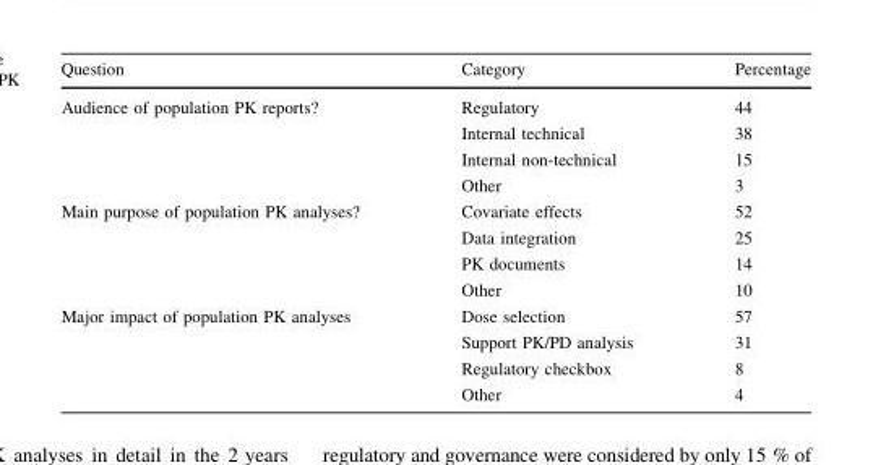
<table><thead><tr><td>Question</td><td>Category</td><td>Percentage</td></tr></thead><tbody><tr><td rowspan="4">Audience of population PK reports?</td><td>Regulatory</td><td>44</td></tr><tr><td>Internal technical</td><td>38</td></tr><tr><td>Internal non-technical</td><td>15</td></tr><tr><td>Other</td><td>3</td></tr><tr><td rowspan="4">Main purpose of population PK analyses?</td><td>Covariate effects</td><td>52</td></tr><tr><td>Data integration</td><td>25</td></tr><tr><td>PK documents</td><td>14</td></tr><tr><td>Other</td><td>10</td></tr><tr><td rowspan="4">Major impact of population PK analyses</td><td>Dose selection</td><td>57</td></tr><tr><td>Support PK/PD analysis</td><td>31</td></tr><tr><td>Regulatory checkbox</td><td>8</td></tr><tr><td>Other</td><td>4</td></tr></tbody></table>